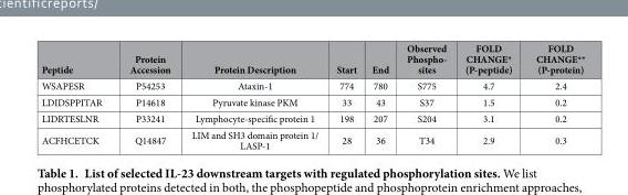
<table><thead><tr><td>Peptide</td><td>Protein Accession</td><td>Protein Description</td><td>Start</td><td>End</td><td>Observed Phospho- sites</td><td>FOLD CHANGE* (P-peptide)</td><td>FOLD CHANGE** (P-protein)</td></tr></thead><tbody><tr><td>WSAPESR</td><td>P54253</td><td>Ataxin-1</td><td>774</td><td>780</td><td>S775</td><td>4.7</td><td>2.4</td></tr><tr><td>LDIDSPPITAR</td><td>P14618</td><td>Pyruvate kinase PKM</td><td>33</td><td>43</td><td>S37</td><td>1.5</td><td>0.2</td></tr><tr><td>LIDRTESLNR</td><td>P33241</td><td>Lymphocyte-specific protein 1</td><td>198</td><td>207</td><td>S204</td><td>3.1</td><td>0.2</td></tr><tr><td>ACFHCETCK</td><td>Q14847</td><td>LIM and SH3 domain protein 1/ LASP-1</td><td>28</td><td>36</td><td>T34</td><td>2.9</td><td>0.3</td></tr></tbody></table>